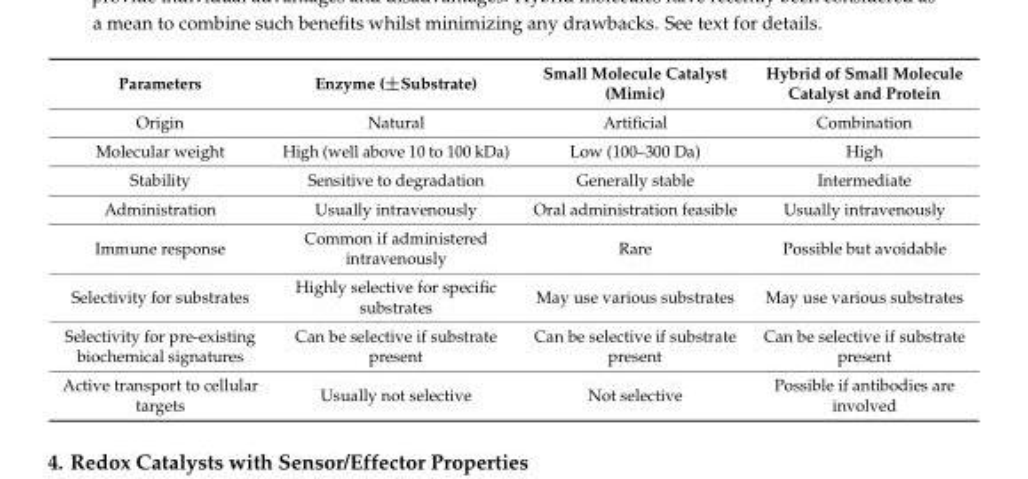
<table><thead><tr><td>Parameters</td><td>Enzyme (±Substrate)</td><td>Small Molecule Catalyst (Mimic)</td><td>Hybrid of Small Molecule Catalyst and Protein</td></tr></thead><tbody><tr><td>Origin</td><td>Natural</td><td>Artificial</td><td>Combination</td></tr><tr><td>Molecular weight</td><td>High (well above 10 to 100 kDa)</td><td>Low (100–300 Da)</td><td>High</td></tr><tr><td>Stability</td><td>Sensitive to degradation</td><td>Generally stable</td><td>Intermediate</td></tr><tr><td>Administration</td><td>Usually intravenously</td><td>Oral administration feasible</td><td>Usually intravenously</td></tr><tr><td>Immune response</td><td>Common if administered intravenously</td><td>Rare</td><td>Possible but avoidable</td></tr><tr><td>Selectivity for substrates</td><td>Highly selective for specific substrates</td><td>May use various substrates</td><td>May use various substrates</td></tr><tr><td>Selectivity for pre-existing biochemical signatures</td><td>Can be selective if substrate present</td><td>Can be selective if substrate present</td><td>Can be selective if substrate present</td></tr><tr><td>Active transport to cellular targets</td><td>Usually not selective</td><td>Not selective</td><td>Possible if antibodies are involved</td></tr></tbody></table>